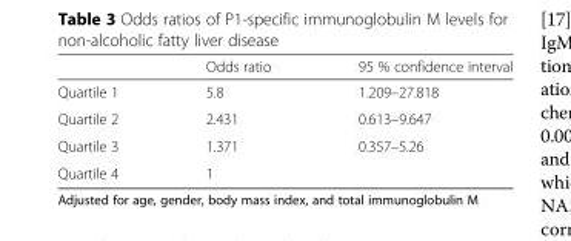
<table><thead><tr><td></td><td>Odds ratio</td><td>95 % confidence interval</td></tr></thead><tbody><tr><td>Quartile 1</td><td>5.8</td><td>1.209–27.818</td></tr><tr><td>Quartile 2</td><td>2.431</td><td>0.613–9.647</td></tr><tr><td>Quartile 3</td><td>1.371</td><td>0.357–5.26</td></tr><tr><td>Quartile 4</td><td>1</td><td></td></tr></tbody></table>